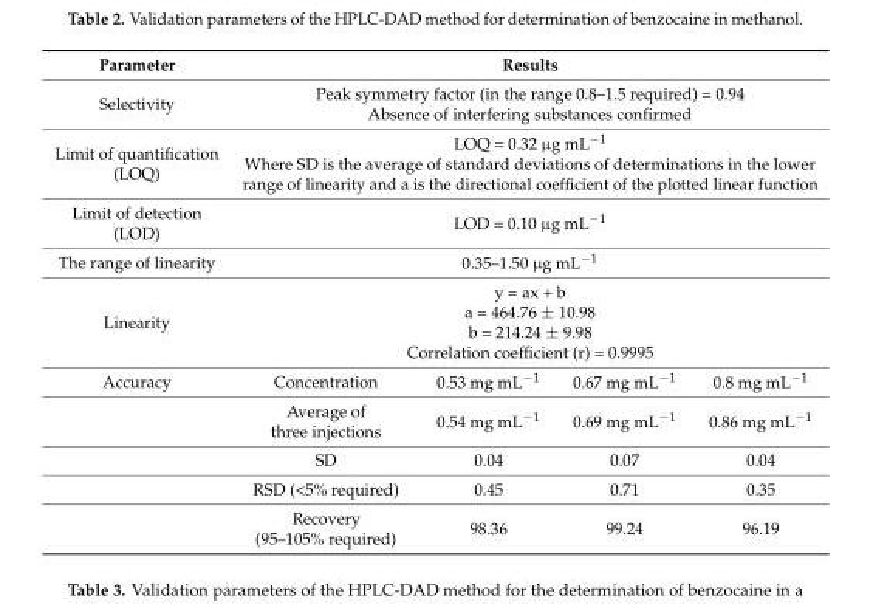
<table><thead><tr><td>Parameter</td><td colspan="4">Results</td></tr></thead><tbody><tr><td>Selectivity</td><td colspan="4">Peak symmetry factor (in the range 0.8–1.5 required) = 0.94 Absence of interfering substances confirmed</td></tr><tr><td>Limit of quantification (LOQ)</td><td colspan="4">LOQ = 0.32 µg mL<sup>−1</sup> Where SD is the average of standard deviations of determinations in the lower range of linearity and a is the directional coefficient of the plotted linear function</td></tr><tr><td>Limit of detection (LOD)</td><td colspan="4">LOD = 0.10 µg mL<sup>−1</sup></td></tr><tr><td>The range of linearity</td><td colspan="4">0.35–1.50 µg mL<sup>−1</sup></td></tr><tr><td>Linearity</td><td colspan="4">y = ax + b a = 464.76 ± 10.98 b = 214.24 ± 9.98 Correlation coefficient (r) = 0.9995</td></tr><tr><td rowspan="5">Accuracy</td><td>Concentration</td><td>0.53 mg mL<sup>−1</sup></td><td>0.67 mg mL<sup>−1</sup></td><td>0.8 mg mL<sup>−1</sup></td></tr><tr><td>Average of three injections</td><td>0.54 mg mL<sup>−1</sup></td><td>0.69 mg mL<sup>−1</sup></td><td>0.86 mg mL<sup>−1</sup></td></tr><tr><td>SD</td><td>0.04</td><td>0.07</td><td>0.04</td></tr><tr><td>RSD (&lt;5% required)</td><td>0.45</td><td>0.71</td><td>0.35</td></tr><tr><td>Recovery (95–105% required)</td><td>98.36</td><td>99.24</td><td>96.19</td></tr></tbody></table>